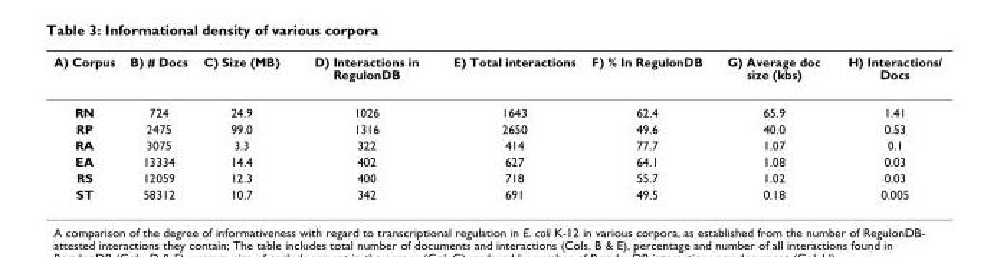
<table><thead><tr><td>A) Corpus</td><td>B) # Docs</td><td>C) Size (MB)</td><td>D) Interactions in RegulonDB</td><td>E) Total interactions</td><td>F) % In RegulonDB</td><td>G) Average doc size (kbs)</td><td>H) Interactions/ Docs</td></tr></thead><tbody><tr><td>RN</td><td>724</td><td>24.9</td><td>1026</td><td>1643</td><td>62.4</td><td>65.9</td><td>1.41</td></tr><tr><td>RP</td><td>2475</td><td>99.0</td><td>1316</td><td>2650</td><td>49.6</td><td>40.0</td><td>0.53</td></tr><tr><td>RA</td><td>3075</td><td>3.3</td><td>322</td><td>414</td><td>77.7</td><td>1.07</td><td>0.1</td></tr><tr><td>EA</td><td>13334</td><td>14.4</td><td>402</td><td>627</td><td>64.1</td><td>1.08</td><td>0.03</td></tr><tr><td>RS</td><td>12059</td><td>12.3</td><td>400</td><td>718</td><td>55.7</td><td>1.02</td><td>0.03</td></tr><tr><td>ST</td><td>58312</td><td>10.7</td><td>342</td><td>691</td><td>49.5</td><td>0.18</td><td>0.005</td></tr></tbody></table>